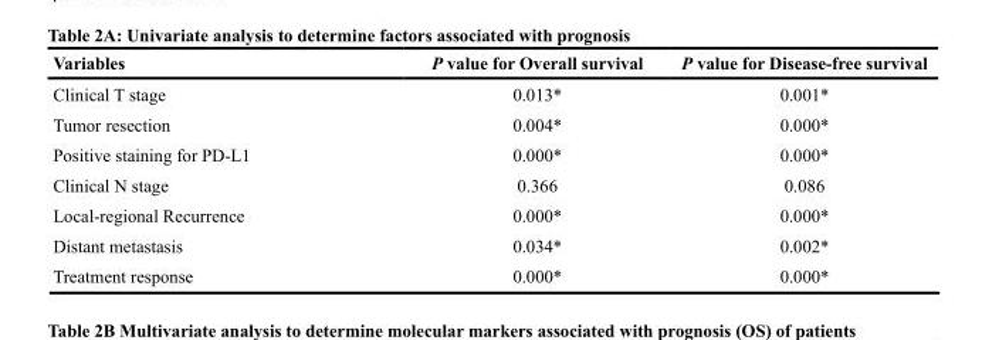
<table><thead><tr><td>Variables</td><td>P value for Overall survival</td><td>P value for Disease-free survival</td></tr></thead><tbody><tr><td>Clinical T stage</td><td>0.013*</td><td>0.001*</td></tr><tr><td>Tumor resection</td><td>0.004*</td><td>0.000*</td></tr><tr><td>Positive staining for PD-L1</td><td>0.000*</td><td>0.000*</td></tr><tr><td>Clinical N stage</td><td>0.366</td><td>0.086</td></tr><tr><td>Local-regional Recurrence</td><td>0.000*</td><td>0.000*</td></tr><tr><td>Distant metastasis</td><td>0.034*</td><td>0.002*</td></tr><tr><td>Treatment response</td><td>0.000*</td><td>0.000*</td></tr></tbody></table>